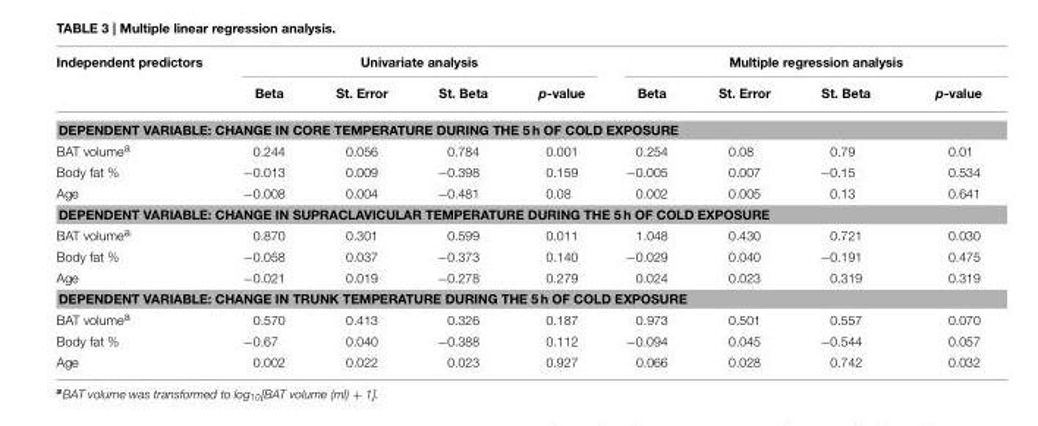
<table><thead><tr><td rowspan="2">Independent predictors</td><td colspan="4">Univariate analysis</td><td colspan="4">Multiple regression analysis</td></tr><tr><td>Beta</td><td>St. Error</td><td>St. Beta</td><td>p-value</td><td>Beta</td><td>St. Error</td><td>St. Beta</td><td>p-value</td></tr></thead><tbody><tr><td colspan="9">DEPENDENT VARIABLE: CHANGE IN CORE TEMPERATURE DURING THE 5 h OF COLD EXPOSURE</td></tr><tr><td>BAT volume<sup>a</sup></td><td>0.244</td><td>0.056</td><td>0.784</td><td>0.001</td><td>0.254</td><td>0.08</td><td>0.79</td><td>0.01</td></tr><tr><td>Body fat %</td><td>−0.013</td><td>0.009</td><td>−0.398</td><td>0.159</td><td>−0.005</td><td>0.007</td><td>−0.15</td><td>0.534</td></tr><tr><td>Age</td><td>−0.008</td><td>0.004</td><td>−0.481</td><td>0.08</td><td>0.002</td><td>0.005</td><td>0.13</td><td>0.641</td></tr><tr><td colspan="9">DEPENDENT VARIABLE: CHANGE IN SUPRACLAVICULAR TEMPERATURE DURING THE 5 h OF COLD EXPOSURE</td></tr><tr><td>BAT volume<sup>a</sup></td><td>0.870</td><td>0.301</td><td>0.599</td><td>0.011</td><td>1.048</td><td>0.430</td><td>0.721</td><td>0.030</td></tr><tr><td>Body fat %</td><td>−0.058</td><td>0.037</td><td>−0.373</td><td>0.140</td><td>−0.029</td><td>0.040</td><td>−0.191</td><td>0.475</td></tr><tr><td>Age</td><td>−0.021</td><td>0.019</td><td>−0.278</td><td>0.279</td><td>0.024</td><td>0.023</td><td>0.319</td><td>0.319</td></tr><tr><td colspan="9">DEPENDENT VARIABLE: CHANGE IN TRUNK TEMPERATURE DURING THE 5 h OF COLD EXPOSURE</td></tr><tr><td>BAT volume<sup>a</sup></td><td>0.570</td><td>0.413</td><td>0.326</td><td>0.187</td><td>0.973</td><td>0.501</td><td>0.557</td><td>0.070</td></tr><tr><td>Body fat %</td><td>−0.67</td><td>0.040</td><td>−0.388</td><td>0.112</td><td>−0.094</td><td>0.045</td><td>−0.544</td><td>0.057</td></tr><tr><td>Age</td><td>0.002</td><td>0.022</td><td>0.023</td><td>0.927</td><td>0.066</td><td>0.028</td><td>0.742</td><td>0.032</td></tr></tbody></table>